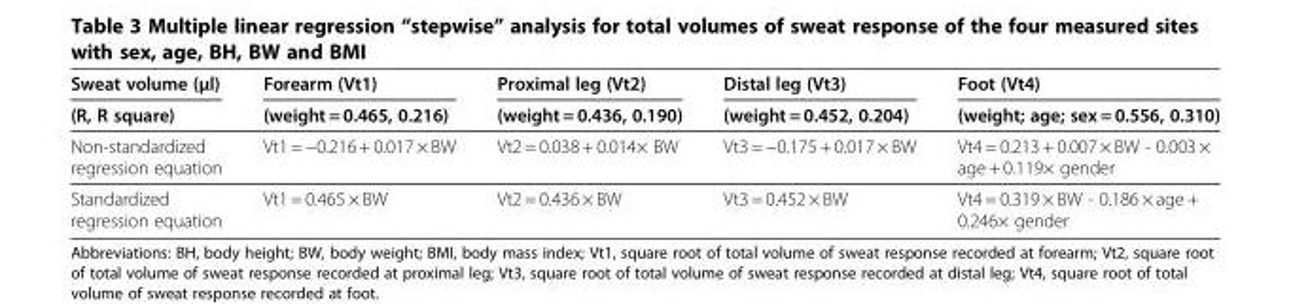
<table><thead><tr><td rowspan="2">Sweat volume (μl) (R, R square)</td><td rowspan="2">Forearm (Vt1) (weight = 0.465, 0.216)</td><td rowspan="2">Proximal leg (Vt2) (weight = 0.436, 0.190)</td><td rowspan="2">Distal leg (Vt3) (weight = 0.452, 0.204)</td><td rowspan="2">Foot (Vt4) (weight; age; sex = 0.556, 0.310)</td></tr><tr></tr></thead><tbody><tr><td>Non-standardized regression equation</td><td>Vt1 = −0.216 + 0.017 × BW</td><td>Vt2 = 0.038 + 0.014× BW</td><td>Vt3 = −0.175 + 0.017 × BW</td><td>Vt4 = 0.213 + 0.007 × BW - 0.003 × age + 0.119× gender</td></tr><tr><td>Standardized regression equation</td><td>Vt1 = 0.465 × BW</td><td>Vt2 = 0.436 × BW</td><td>Vt3 = 0.452 × BW</td><td>Vt4 = 0.319 × BW - 0.186 × age + 0.246× gender</td></tr></tbody></table>